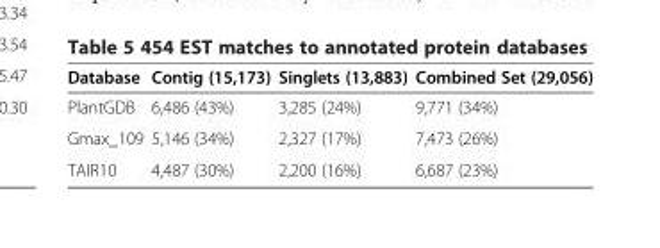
<table><thead><tr><td>Database</td><td>Contig (15,173)</td><td>Singlets (13,883)</td><td>Combined Set (29,056)</td></tr></thead><tbody><tr><td>PlantGDB</td><td>6,486 (43%)</td><td>3,285 (24%)</td><td>9,771 (34%)</td></tr><tr><td>Gmax_109</td><td>5,146 (34%)</td><td>2,327 (17%)</td><td>7,473 (26%)</td></tr><tr><td>TAIR10</td><td>4,487 (30%)</td><td>2,200 (16%)</td><td>6,687 (23%)</td></tr></tbody></table>